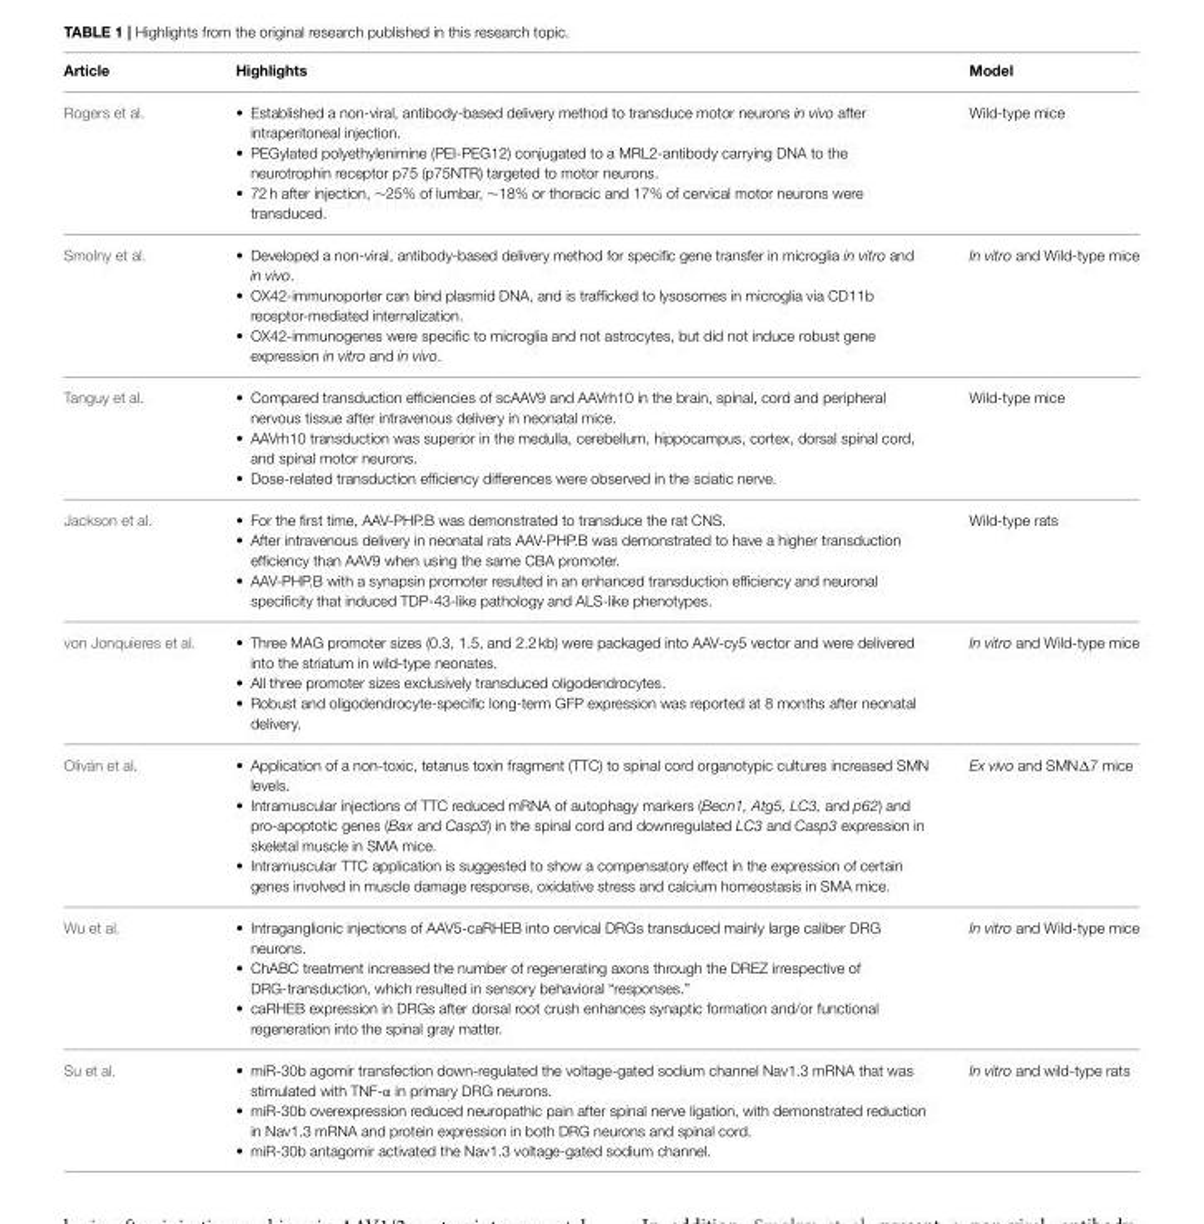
<table><thead><tr><td>Article</td><td>Highlights</td><td>Model</td></tr></thead><tbody><tr><td>Rogers et al.</td><td>• Established a non-viral, antibody-based delivery method to transduce motor neurons in vivo after intraperitoneal injection. • PEGylated polyethylenimine (PEI-PEG12) conjugated to a MRL2-antibody carrying DNA to the neurotrophin receptor p75 (p75NTR) targeted to motor neurons. • 72 h after injection, ∼25% of lumbar, ∼18% or thoracic and 17% of cervical motor neurons were transduced.</td><td>Wild-type mice</td></tr><tr><td>Smolny et al.</td><td>• Developed a non-viral, antibody-based delivery method for specific gene transfer in microglia in vitro and in vivo. • OX42-immunoporter can bind plasmid DNA, and is trafficked to lysosomes in microglia via CD11b receptor-mediated internalization. • OX42-immunogenes were specific to microglia and not astrocytes, but did not induce robust gene expression in vitro and in vivo.</td><td>In vitro and Wild-type mice</td></tr><tr><td>Tanguy et al.</td><td>• Compared transduction efficiencies of scAAV9 and AAVrh10 in the brain, spinal, cord and peripheral nervous tissue after intravenous delivery in neonatal mice. • AAVrh10 transduction was superior in the medulla, cerebellum, hippocampus, cortex, dorsal spinal cord, and spinal motor neurons. • Dose-related transduction efficiency differences were observed in the sciatic nerve.</td><td>Wild-type mice</td></tr><tr><td>Jackson et al.</td><td>• For the first time, AAV-PHP.B was demonstrated to transduce the rat CNS. • After intravenous delivery in neonatal rats AAV-PHP.B was demonstrated to have a higher transduction efficiency than AAV9 when using the same CBA promoter. • AAV-PHP.B with a synapsin promoter resulted in an enhanced transduction efficiency and neuronal specificity that induced TDP-43-like pathology and ALS-like phenotypes.</td><td>Wild-type rats</td></tr><tr><td>von Jonquieres et al.</td><td>• Three MAG promoter sizes (0.3, 1.5, and 2.2 kb) were packaged into AAV-cy5 vector and were delivered into the striatum in wild-type neonates. • All three promoter sizes exclusively transduced oligodendrocytes. • Robust and oligodendrocyte-specific long-term GFP expression was reported at 8 months after neonatal delivery.</td><td>In vitro and Wild-type mice</td></tr><tr><td>Oliván et al.</td><td>• Application of a non-toxic, tetanus toxin fragment (TTC) to spinal cord organotypic cultures increased SMN levels. • Intramuscular injections of TTC reduced mRNA of autophagy markers (Becn1, Atg5, LC3, and p62) and pro-apoptotic genes (Bax and Casp3) in the spinal cord and downregulated LC3 and Casp3 expression in skeletal muscle in SMA mice. • Intramuscular TTC application is suggested to show a compensatory effect in the expression of certain genes involved in muscle damage response, oxidative stress and calcium homeostasis in SMA mice.</td><td>Ex vivo and SMNΔ7 mice</td></tr><tr><td>Wu et al.</td><td>• Intraganglionic injections of AAV5-caRHEB into cervical DRGs transduced mainly large caliber DRG neurons. • ChABC treatment increased the number of regenerating axons through the DREZ irrespective of DRG-transduction, which resulted in sensory behavioral “responses.” • caRHEB expression in DRGs after dorsal root crush enhances synaptic formation and/or functional regeneration into the spinal gray matter.</td><td>In vitro and Wild-type mice</td></tr><tr><td>Su et al.</td><td>• miR-30b agomir transfection down-regulated the voltage-gated sodium channel Nav1.3 mRNA that was stimulated with TNF-α in primary DRG neurons. • miR-30b overexpression reduced neuropathic pain after spinal nerve ligation, with demonstrated reduction in Nav1.3 mRNA and protein expression in both DRG neurons and spinal cord. • miR-30b antagomir activated the Nav1.3 voltage-gated sodium channel.</td><td>In vitro and wild-type rats</td></tr></tbody></table>